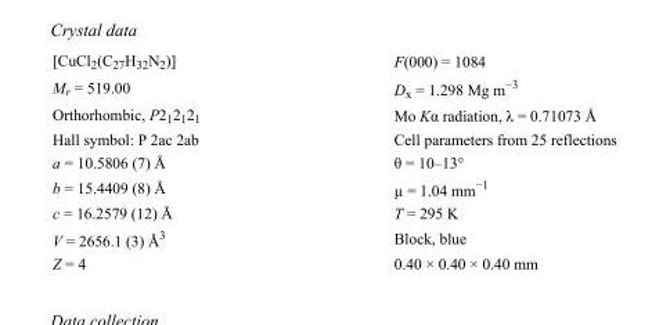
<table><tbody><tr><td>[CuCl<sub>2</sub>(C<sub>27</sub>H<sub>32</sub>N<sub>2</sub>)]</td><td>F(000) = 1084</td></tr><tr><td>M<sub>r</sub> = 519.00</td><td>D<sub>x</sub> = 1.298 Mg m<sup>−3</sup></td></tr><tr><td>Orthorhombic, P2<sub>1</sub>2<sub>1</sub>2<sub>1</sub></td><td>Mo Kα radiation, λ = 0.71073 Å</td></tr><tr><td>Hall symbol: P 2ac 2ab</td><td>Cell parameters from 25 reflections</td></tr><tr><td>a = 10.5806 (7) Å</td><td>θ = 10–13°</td></tr><tr><td>b = 15.4409 (8) Å</td><td>µ = 1.04 mm<sup>−1</sup></td></tr><tr><td>c = 16.2579 (12) Å</td><td>T = 295 K</td></tr><tr><td>V = 2656.1 (3) Å<sup>3</sup></td><td>Block, blue</td></tr><tr><td>Z = 4</td><td>0.40 × 0.40 × 0.40 mm</td></tr></tbody></table>